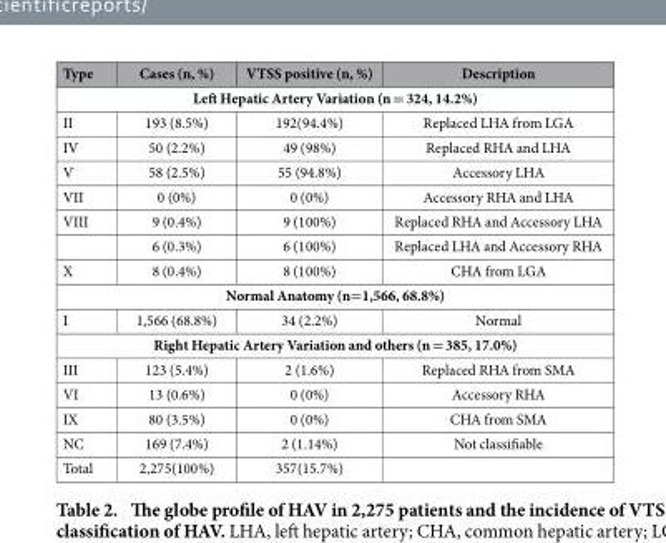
<table><thead><tr><td>Type</td><td>Cases (n, %)</td><td>VTSS positive (n, %)</td><td>Description</td></tr></thead><tbody><tr><td colspan="4">Left Hepatic Artery Variation (n = 324, 14.2%)</td></tr><tr><td>II</td><td>193 (8.5%)</td><td>192(94.4%)</td><td>Replaced LHA from LGA</td></tr><tr><td>IV</td><td>50 (2.2%)</td><td>49 (98%)</td><td>Replaced RHA and LHA</td></tr><tr><td>V</td><td>58 (2.5%)</td><td>55 (94.8%)</td><td>Accessory LHA</td></tr><tr><td>VII</td><td>0 (0%)</td><td>0 (0%)</td><td>Accessory RHA and LHA</td></tr><tr><td rowspan="2">VIII</td><td>9 (0.4%)</td><td>9 (100%)</td><td>Replaced RHA and Accessory LHA</td></tr><tr><td>6 (0.3%)</td><td>6 (100%)</td><td>Replaced LHA and Accessory RHA</td></tr><tr><td>X</td><td>8 (0.4%)</td><td>8 (100%)</td><td>CHA from LGA</td></tr><tr><td colspan="4">Normal Anatomy (n=1,566, 68.8%)</td></tr><tr><td>I</td><td>1,566 (68.8%)</td><td>34 (2.2%)</td><td>Normal</td></tr><tr><td colspan="4">Right Hepatic Artery Variation and others (n = 385, 17.0%)</td></tr><tr><td>III</td><td>123 (5.4%)</td><td>2 (1.6%)</td><td>Replaced RHA from SMA</td></tr><tr><td>VI</td><td>13 (0.6%)</td><td>0 (0%)</td><td>Accessory RHA</td></tr><tr><td>IX</td><td>80 (3.5%)</td><td>0 (0%)</td><td>CHA from SMA</td></tr><tr><td>NC</td><td>169 (7.4%)</td><td>2 (1.14%)</td><td>Not classifiable</td></tr><tr><td>Total</td><td>2,275(100%)</td><td>357(15.7%)</td><td></td></tr></tbody></table>